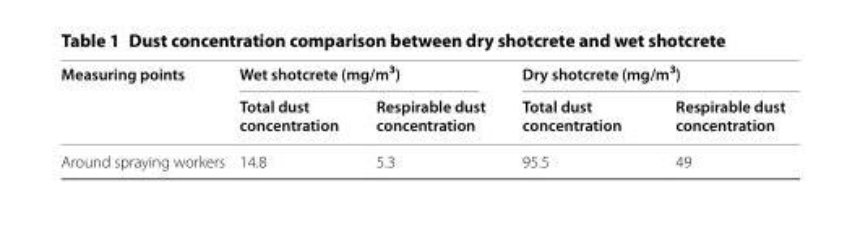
<table><thead><tr><td rowspan="2">Measuring points</td><td colspan="2">Wet shotcrete (mg/m<sup>3</sup>)</td><td colspan="2">Dry shotcrete (mg/m<sup>3</sup>)</td></tr><tr><td>Total dust concentration</td><td>Respirable dust concentration</td><td>Total dust concentration</td><td>Respirable dust concentration</td></tr></thead><tbody><tr><td>Around spraying workers</td><td>14.8</td><td>5.3</td><td>95.5</td><td>49</td></tr></tbody></table>